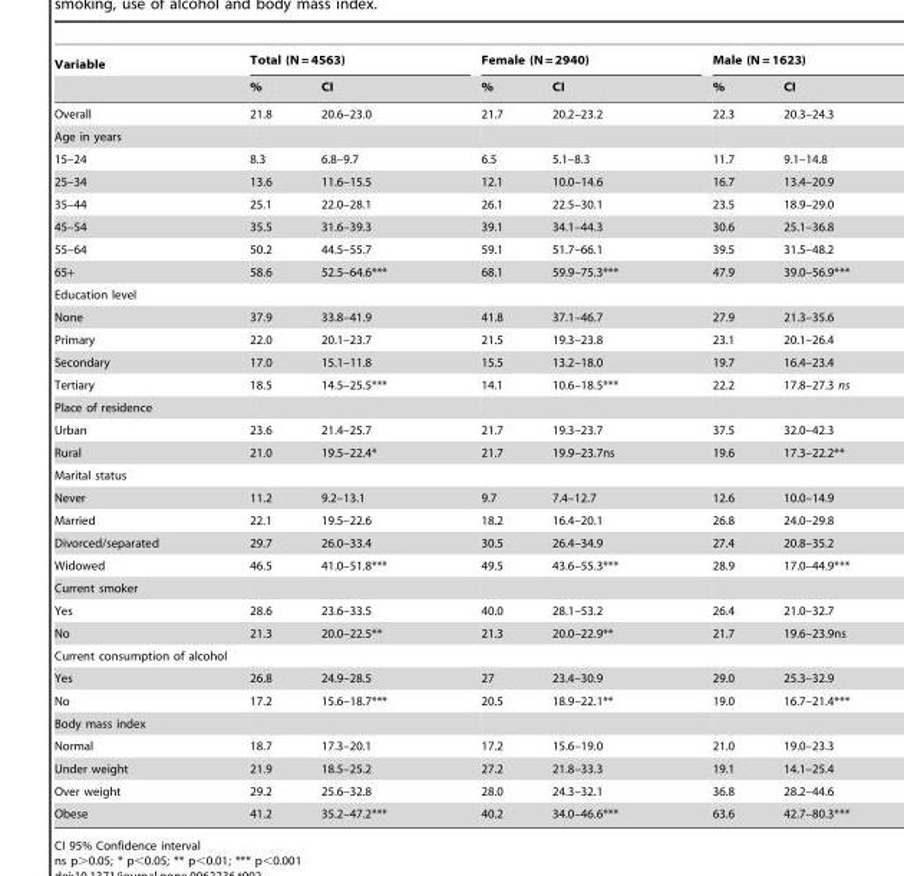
<table><thead><tr><td rowspan="2">Variable</td><td colspan="2">Total (N = 4563)</td><td colspan="2">Female (N = 2940)</td><td colspan="2">Male (N = 1623)</td></tr><tr><td>%</td><td>CI</td><td>%</td><td>CI</td><td>%</td><td>CI</td></tr></thead><tbody><tr><td>Overall</td><td>21.8</td><td>20.6–23.0</td><td>21.7</td><td>20.2–23.2</td><td>22.3</td><td>20.3–24.3</td></tr><tr><td colspan="7">Age in years</td></tr><tr><td>15–24</td><td>8.3</td><td>6.8–9.7</td><td>6.5</td><td>5.1–8.3</td><td>11.7</td><td>9.1–14.8</td></tr><tr><td>25–34</td><td>13.6</td><td>11.6–15.5</td><td>12.1</td><td>10.0–14.6</td><td>16.7</td><td>13.4–20.9</td></tr><tr><td>35–44</td><td>25.1</td><td>22.0–28.1</td><td>26.1</td><td>22.5–30.1</td><td>23.5</td><td>18.9–29.0</td></tr><tr><td>45–54</td><td>35.5</td><td>31.6–39.3</td><td>39.1</td><td>34.1–44.3</td><td>30.6</td><td>25.1–36.8</td></tr><tr><td>55–64</td><td>50.2</td><td>44.5–55.7</td><td>59.1</td><td>51.7–66.1</td><td>39.5</td><td>31.5–48.2</td></tr><tr><td>65+</td><td>58.6</td><td>52.5–64.6***</td><td>68.1</td><td>59.9–75.3***</td><td>47.9</td><td>39.0–56.9***</td></tr><tr><td colspan="7">Education level</td></tr><tr><td>None</td><td>37.9</td><td>33.8–41.9</td><td>41.8</td><td>37.1–46.7</td><td>27.9</td><td>21.3–35.6</td></tr><tr><td>Primary</td><td>22.0</td><td>20.1–23.7</td><td>21.5</td><td>19.3–23.8</td><td>23.1</td><td>20.1–26.4</td></tr><tr><td>Secondary</td><td>17.0</td><td>15.1–11.8</td><td>15.5</td><td>13.2–18.0</td><td>19.7</td><td>16.4–23.4</td></tr><tr><td>Tertiary</td><td>18.5</td><td>14.5–25.5***</td><td>14.1</td><td>10.6–18.5***</td><td>22.2</td><td>17.8–27.3 ns</td></tr><tr><td colspan="7">Place of residence</td></tr><tr><td>Urban</td><td>23.6</td><td>21.4–25.7</td><td>21.7</td><td>19.3–23.7</td><td>37.5</td><td>32.0–42.3</td></tr><tr><td>Rural</td><td>21.0</td><td>19.5–22.4*</td><td>21.7</td><td>19.9–23.7ns</td><td>19.6</td><td>17.3–22.2**</td></tr><tr><td colspan="7">Marital status</td></tr><tr><td>Never</td><td>11.2</td><td>9.2–13.1</td><td>9.7</td><td>7.4–12.7</td><td>12.6</td><td>10.0–14.9</td></tr><tr><td>Married</td><td>22.1</td><td>19.5–22.6</td><td>18.2</td><td>16.4–20.1</td><td>26.8</td><td>24.0–29.8</td></tr><tr><td>Divorced/separated</td><td>29.7</td><td>26.0–33.4</td><td>30.5</td><td>26.4–34.9</td><td>27.4</td><td>20.8–35.2</td></tr><tr><td>Widowed</td><td>46.5</td><td>41.0–51.8***</td><td>49.5</td><td>43.6–55.3***</td><td>28.9</td><td>17.0–44.9***</td></tr><tr><td colspan="7">Current smoker</td></tr><tr><td>Yes</td><td>28.6</td><td>23.6–33.5</td><td>40.0</td><td>28.1–53.2</td><td>26.4</td><td>21.0–32.7</td></tr><tr><td>No</td><td>21.3</td><td>20.0–22.5**</td><td>21.3</td><td>20.0–22.9**</td><td>21.7</td><td>19.6–23.9ns</td></tr><tr><td colspan="7">Current consumption of alcohol</td></tr><tr><td>Yes</td><td>26.8</td><td>24.9–28.5</td><td>27</td><td>23.4–30.9</td><td>29.0</td><td>25.3–32.9</td></tr><tr><td>No</td><td>17.2</td><td>15.6–18.7***</td><td>20.5</td><td>18.9–22.1**</td><td>19.0</td><td>16.7–21.4***</td></tr><tr><td colspan="7">Body mass index</td></tr><tr><td>Normal</td><td>18.7</td><td>17.3–20.1</td><td>17.2</td><td>15.6–19.0</td><td>21.0</td><td>19.0–23.3</td></tr><tr><td>Under weight</td><td>21.9</td><td>18.5–25.2</td><td>27.2</td><td>21.8–33.3</td><td>19.1</td><td>14.1–25.4</td></tr><tr><td>Over weight</td><td>29.2</td><td>25.6–32.8</td><td>28.0</td><td>24.3–32.1</td><td>36.8</td><td>28.2–44.6</td></tr><tr><td>Obese</td><td>41.2</td><td>35.2–47.2***</td><td>40.2</td><td>34.0–46.6***</td><td>63.6</td><td>42.7–80.3***</td></tr></tbody></table>